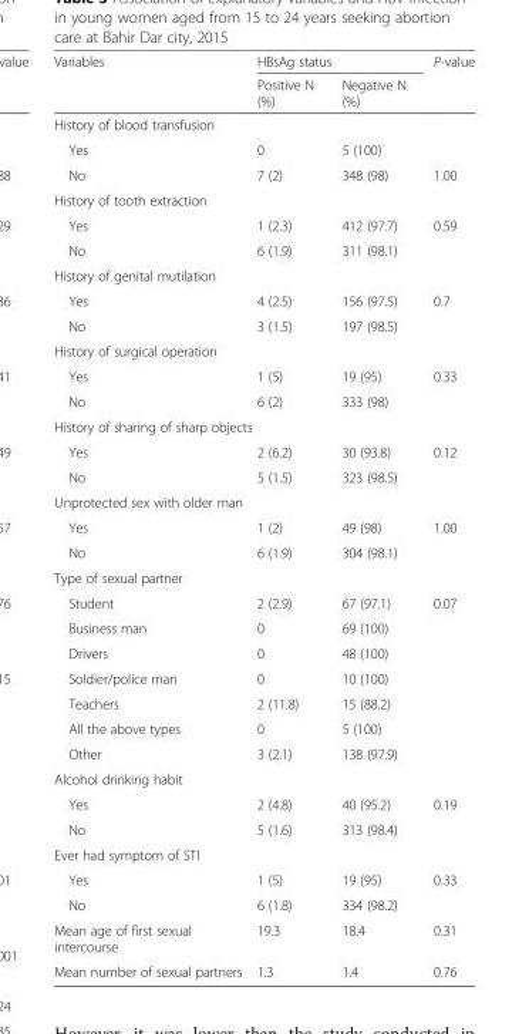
<table><thead><tr><td rowspan="2">Variables</td><td colspan="2">HBsAg status</td><td rowspan="2">P-value</td></tr><tr><td>Positive N (%)</td><td>Negative N (%)</td></tr></thead><tbody><tr><td colspan="4">History of blood transfusion</td></tr><tr><td>Yes</td><td>0</td><td>5 (100)</td><td></td></tr><tr><td>No</td><td>7 (2)</td><td>348 (98)</td><td>1.00</td></tr><tr><td colspan="4">History of tooth extraction</td></tr><tr><td>Yes</td><td>1 (2.3)</td><td>412 (97.7)</td><td>0.59</td></tr><tr><td>No</td><td>6 (1.9)</td><td>311 (98.1)</td><td></td></tr><tr><td colspan="4">History of genital mutilation</td></tr><tr><td>Yes</td><td>4 (2.5)</td><td>156 (97.5)</td><td>0.7</td></tr><tr><td>No</td><td>3 (1.5)</td><td>197 (98.5)</td><td></td></tr><tr><td colspan="4">History of surgical operation</td></tr><tr><td>Yes</td><td>1 (5)</td><td>19 (95)</td><td>0.33</td></tr><tr><td>No</td><td>6 (2)</td><td>333 (98)</td><td></td></tr><tr><td colspan="4">History of sharing of sharp objects</td></tr><tr><td>Yes</td><td>2 (6.2)</td><td>30 (93.8)</td><td>0.12</td></tr><tr><td>No</td><td>5 (1.5)</td><td>323 (98.5)</td><td></td></tr><tr><td colspan="4">Unprotected sex with older man</td></tr><tr><td>Yes</td><td>1 (2)</td><td>49 (98)</td><td>1.00</td></tr><tr><td>No</td><td>6 (1.9)</td><td>304 (98.1)</td><td></td></tr><tr><td colspan="4">Type of sexual partner</td></tr><tr><td>Student</td><td>2 (2.9)</td><td>67 (97.1)</td><td>0.07</td></tr><tr><td>Business man</td><td>0</td><td>69 (100)</td><td></td></tr><tr><td>Drivers</td><td>0</td><td>48 (100)</td><td></td></tr><tr><td>Soldier/police man</td><td>0</td><td>10 (100)</td><td></td></tr><tr><td>Teachers</td><td>2 (11.8)</td><td>15 (88.2)</td><td></td></tr><tr><td>All the above types</td><td>0</td><td>5 (100)</td><td></td></tr><tr><td>Other</td><td>3 (2.1)</td><td>138 (97.9)</td><td></td></tr><tr><td colspan="4">Alcohol drinking habit</td></tr><tr><td>Yes</td><td>2 (4.8)</td><td>40 (95.2)</td><td>0.19</td></tr><tr><td>No</td><td>5 (1.6)</td><td>313 (98.4)</td><td></td></tr><tr><td colspan="4">Ever had symptom of STI</td></tr><tr><td>Yes</td><td>1 (5)</td><td>19 (95)</td><td>0.33</td></tr><tr><td>No</td><td>6 (1.8)</td><td>334 (98.2)</td><td></td></tr><tr><td>Mean age of first sexual intercourse</td><td>19.3</td><td>18.4</td><td>0.31</td></tr><tr><td>Mean number of sexual partners</td><td>1.3</td><td>1.4</td><td>0.76</td></tr></tbody></table>